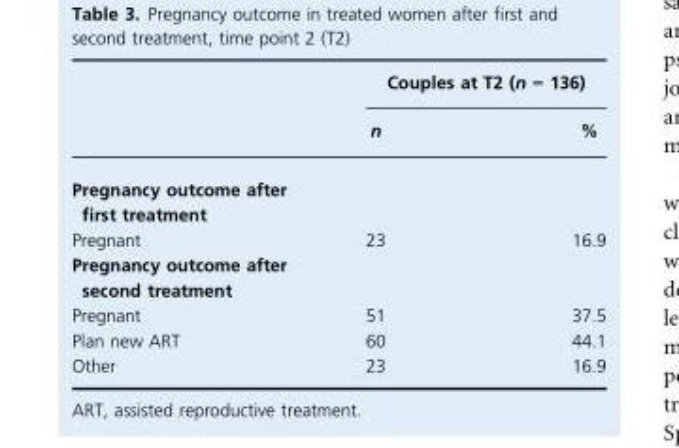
<table><thead><tr><td rowspan="2"></td><td colspan="2">Couples at T2 (n = 136)</td></tr><tr><td>n</td><td>%</td></tr></thead><tbody><tr><td colspan="3">Pregnancy outcome after first treatment</td></tr><tr><td>Pregnant</td><td>23</td><td>16.9</td></tr><tr><td colspan="3">Pregnancy outcome after second treatment</td></tr><tr><td>Pregnant</td><td>51</td><td>37.5</td></tr><tr><td>Plan new ART</td><td>60</td><td>44.1</td></tr><tr><td>Other</td><td>23</td><td>16.9</td></tr></tbody></table>